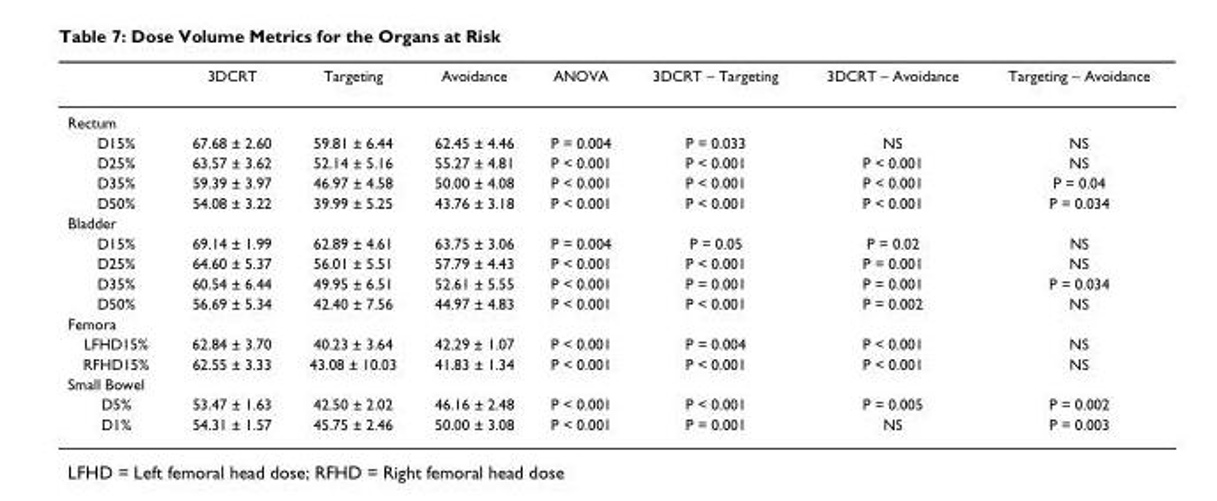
<table><thead><tr><td></td><td>3DCRT</td><td>Targeting</td><td>Avoidance</td><td>ANOVA</td><td>3DCRT – Targeting</td><td>3DCRT – Avoidance</td><td>Targeting – Avoidance</td></tr></thead><tbody><tr><td colspan="8">Rectum</td></tr><tr><td>D15%</td><td>67.68 ± 2.60</td><td>59.81 ± 6.44</td><td>62.45 ± 4.46</td><td>P = 0.004</td><td>P = 0.033</td><td>NS</td><td>NS</td></tr><tr><td>D25%</td><td>63.57 ± 3.62</td><td>52.14 ± 5.16</td><td>55.27 ± 4.81</td><td>P &lt; 0.001</td><td>P &lt; 0.001</td><td>P &lt; 0.001</td><td>NS</td></tr><tr><td>D35%</td><td>59.39 ± 3.97</td><td>46.97 ± 4.58</td><td>50.00 ± 4.08</td><td>P &lt; 0.001</td><td>P &lt; 0.001</td><td>P &lt; 0.001</td><td>P = 0.04</td></tr><tr><td>D50%</td><td>54.08 ± 3.22</td><td>39.99 ± 5.25</td><td>43.76 ± 3.18</td><td>P &lt; 0.001</td><td>P &lt; 0.001</td><td>P &lt; 0.001</td><td>P = 0.034</td></tr><tr><td colspan="8">Bladder</td></tr><tr><td>D15%</td><td>69.14 ± 1.99</td><td>62.89 ± 4.61</td><td>63.75 ± 3.06</td><td>P = 0.004</td><td>P = 0.05</td><td>P = 0.02</td><td>NS</td></tr><tr><td>D25%</td><td>64.60 ± 5.37</td><td>56.01 ± 5.51</td><td>57.79 ± 4.43</td><td>P &lt; 0.001</td><td>P &lt; 0.001</td><td>P = 0.001</td><td>NS</td></tr><tr><td>D35%</td><td>60.54 ± 6.44</td><td>49.95 ± 6.51</td><td>52.61 ± 5.55</td><td>P &lt; 0.001</td><td>P = 0.001</td><td>P = 0.001</td><td>P = 0.034</td></tr><tr><td>D50%</td><td>56.69 ± 5.34</td><td>42.40 ± 7.56</td><td>44.97 ± 4.83</td><td>P &lt; 0.001</td><td>P &lt; 0.001</td><td>P = 0.002</td><td>NS</td></tr><tr><td colspan="8">Femora</td></tr><tr><td>LFHD15%</td><td>62.84 ± 3.70</td><td>40.23 ± 3.64</td><td>42.29 ± 1.07</td><td>P &lt; 0.001</td><td>P = 0.004</td><td>P &lt; 0.001</td><td>NS</td></tr><tr><td>RFHD15%</td><td>62.55 ± 3.33</td><td>43.08 ± 10.03</td><td>41.83 ± 1.34</td><td>P &lt; 0.001</td><td>P &lt; 0.001</td><td>P &lt; 0.001</td><td>NS</td></tr><tr><td colspan="8">Small Bowel</td></tr><tr><td>D5%</td><td>53.47 ± 1.63</td><td>42.50 ± 2.02</td><td>46.16 ± 2.48</td><td>P &lt; 0.001</td><td>P &lt; 0.001</td><td>P = 0.005</td><td>P = 0.002</td></tr><tr><td>D1%</td><td>54.31 ± 1.57</td><td>45.75 ± 2.46</td><td>50.00 ± 3.08</td><td>P &lt; 0.001</td><td>P = 0.001</td><td>NS</td><td>P = 0.003</td></tr></tbody></table>